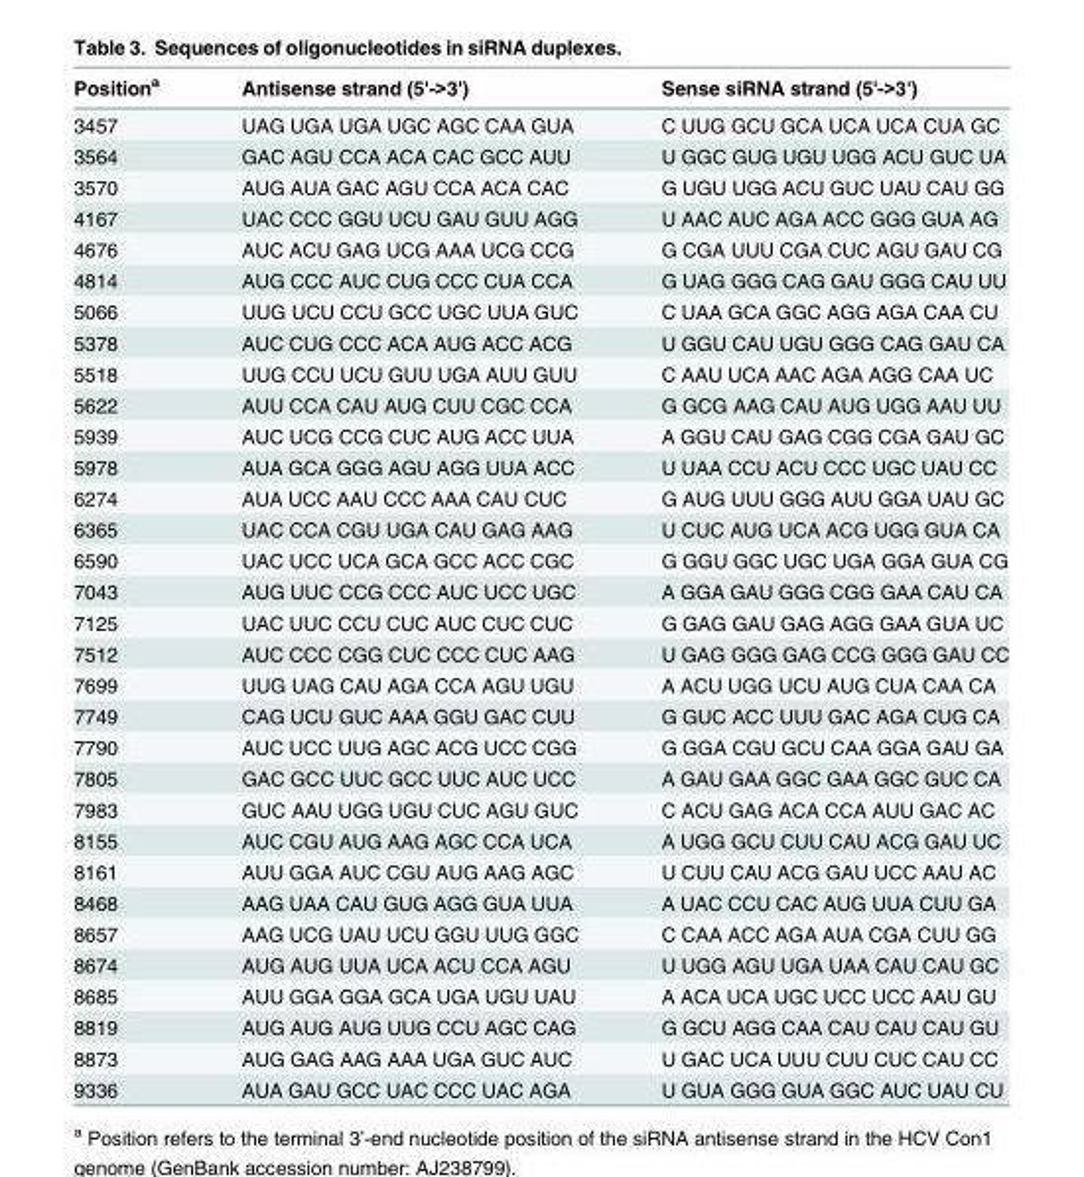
<table><thead><tr><td>Position<sup>a</sup></td><td>Antisense strand (5&#x27;-&gt;3&#x27;)</td><td>Sense siRNA strand (5&#x27;-&gt;3&#x27;)</td></tr></thead><tbody><tr><td>3457</td><td>UAG UGA UGA UGC AGC CAA GUA</td><td>C UUG GCU GCA UCA UCA CUA GC</td></tr><tr><td>3564</td><td>GAC AGU CCA ACA CAC GCC AUU</td><td>U GGC GUG UGU UGG ACU GUC UA</td></tr><tr><td>3570</td><td>AUG AUA GAC AGU CCA ACA CAC</td><td>G UGU UGG ACU GUC UAU CAU GG</td></tr><tr><td>4167</td><td>UAC CCC GGU UCU GAU GUU AGG</td><td>U AAC AUC AGA ACC GGG GUA AG</td></tr><tr><td>4676</td><td>AUC ACU GAG UCG AAA UCG CCG</td><td>G CGA UUU CGA CUC AGU GAU CG</td></tr><tr><td>4814</td><td>AUG CCC AUC CUG CCC CUA CCA</td><td>G UAG GGG CAG GAU GGG CAU UU</td></tr><tr><td>5066</td><td>UUG UCU CCU GCC UGC UUA GUC</td><td>C UAA GCA GGC AGG AGA CAA CU</td></tr><tr><td>5378</td><td>AUC CUG CCC ACA AUG ACC ACG</td><td>U GGU CAU UGU GGG CAG GAU CA</td></tr><tr><td>5518</td><td>UUG CCU UCU GUU UGA AUU GUU</td><td>C AAU UCA AAC AGA AGG CAA UC</td></tr><tr><td>5622</td><td>AUU CCA CAU AUG CUU CGC CCA</td><td>G GCG AAG CAU AUG UGG AAU UU</td></tr><tr><td>5939</td><td>AUC UCG CCG CUC AUG ACC UUA</td><td>A GGU CAU GAG CGG CGA GAU GC</td></tr><tr><td>5978</td><td>AUA GCA GGG AGU AGG UUA ACC</td><td>U UAA CCU ACU CCC UGC UAU CC</td></tr><tr><td>6274</td><td>AUA UCC AAU CCC AAA CAU CUC</td><td>G AUG UUU GGG AUU GGA UAU GC</td></tr><tr><td>6365</td><td>UAC CCA CGU UGA CAU GAG AAG</td><td>U CUC AUG UCA ACG UGG GUA CA</td></tr><tr><td>6590</td><td>UAC UCC UCA GCA GCC ACC CGC</td><td>G GGU GGC UGC UGA GGA GUA CG</td></tr><tr><td>7043</td><td>AUG UUC CCG CCC AUC UCC UGC</td><td>A GGA GAU GGG CGG GAA CAU CA</td></tr><tr><td>7125</td><td>UAC UUC CCU CUC AUC CUC CUC</td><td>G GAG GAU GAG AGG GAA GUA UC</td></tr><tr><td>7512</td><td>AUC CCC CGG CUC CCC CUC AAG</td><td>U GAG GGG GAG CCG GGG GAU CC</td></tr><tr><td>7699</td><td>UUG UAG CAU AGA CCA AGU UGU</td><td>A ACU UGG UCU AUG CUA CAA CA</td></tr><tr><td>7749</td><td>CAG UCU GUC AAA GGU GAC CUU</td><td>G GUC ACC UUU GAC AGA CUG CA</td></tr><tr><td>7790</td><td>AUC UCC UUG AGC ACG UCC CGG</td><td>G GGA CGU GCU CAA GGA GAU GA</td></tr><tr><td>7805</td><td>GAC GCC UUC GCC UUC AUC UCC</td><td>A GAU GAA GGC GAA GGC GUC CA</td></tr><tr><td>7983</td><td>GUC AAU UGG UGU CUC AGU GUC</td><td>C ACU GAG ACA CCA AUU GAC AC</td></tr><tr><td>8155</td><td>AUC CGU AUG AAG AGC CCA UCA</td><td>A UGG GCU CUU CAU ACG GAU UC</td></tr><tr><td>8161</td><td>AUU GGA AUC CGU AUG AAG AGC</td><td>U CUU CAU ACG GAU UCC AAU AC</td></tr><tr><td>8468</td><td>AAG UAA CAU GUG AGG GUA UUA</td><td>A UAC CCU CAC AUG UUA CUU GA</td></tr><tr><td>8657</td><td>AAG UCG UAU UCU GGU UUG GGC</td><td>C CAA ACC AGA AUA CGA CUU GG</td></tr><tr><td>8674</td><td>AUG AUG UUA UCA ACU CCA AGU</td><td>U UGG AGU UGA UAA CAU CAU GC</td></tr><tr><td>8685</td><td>AUU GGA GGA GCA UGA UGU UAU</td><td>A ACA UCA UGC UCC UCC AAU GU</td></tr><tr><td>8819</td><td>AUG AUG AUG UUG CCU AGC CAG</td><td>G GCU AGG CAA CAU CAU CAU GU</td></tr><tr><td>8873</td><td>AUG GAG AAG AAA UGA GUC AUC</td><td>U GAC UCA UUU CUU CUC CAU CC</td></tr><tr><td>9336</td><td>AUA GAU GCC UAC CCC UAC AGA</td><td>U GUA GGG GUA GGC AUC UAU CU</td></tr></tbody></table>